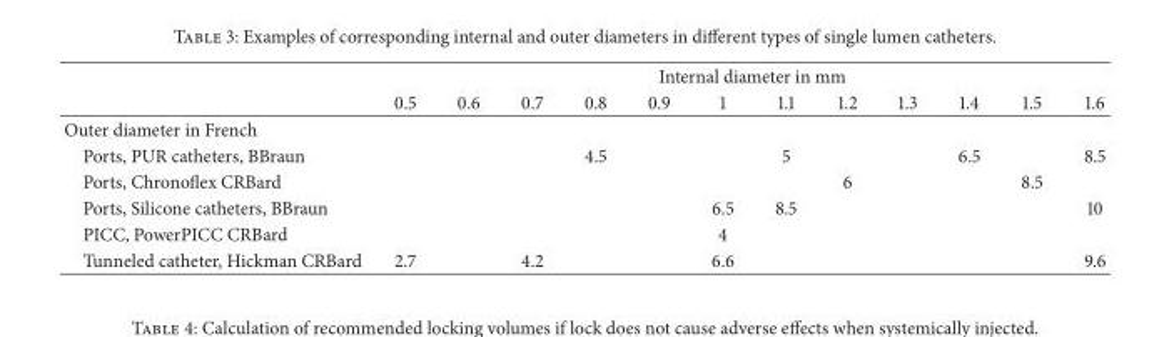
<table><thead><tr><td rowspan="2"></td><td colspan="12">Internal diameter in mm</td></tr><tr><td>0.5</td><td>0.6</td><td>0.7</td><td>0.8</td><td>0.9</td><td>1</td><td>1.1</td><td>1.2</td><td>1.3</td><td>1.4</td><td>1.5</td><td>1.6</td></tr></thead><tbody><tr><td colspan="13">Outer diameter in French</td></tr><tr><td>Ports, PUR catheters, BBraun</td><td></td><td></td><td></td><td>4.5</td><td></td><td></td><td>5</td><td></td><td></td><td>6.5</td><td></td><td>8.5</td></tr><tr><td>Ports, Chronoflex CRBard</td><td></td><td></td><td></td><td></td><td></td><td></td><td></td><td>6</td><td></td><td></td><td>8.5</td><td></td></tr><tr><td>Ports, Silicone catheters, BBraun</td><td></td><td></td><td></td><td></td><td></td><td>6.5</td><td>8.5</td><td></td><td></td><td></td><td></td><td>10</td></tr><tr><td>PICC, PowerPICC CRBard</td><td></td><td></td><td></td><td></td><td></td><td>4</td><td></td><td></td><td></td><td></td><td></td><td></td></tr><tr><td>Tunneled catheter, Hickman CRBard</td><td>2.7</td><td></td><td>4.2</td><td></td><td></td><td>6.6</td><td></td><td></td><td></td><td></td><td></td><td>9.6</td></tr></tbody></table>